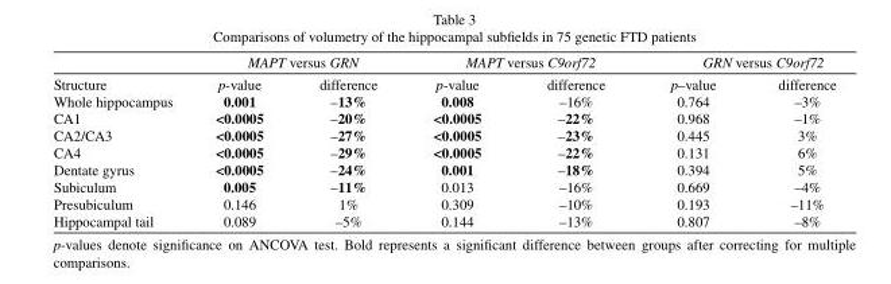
<table><thead><tr><td rowspan="2">Structure</td><td colspan="2">MAPT versus GRN</td><td colspan="2">MAPT versus C9orf72</td><td colspan="2">GRN versus C9orf72</td></tr><tr><td>p-value</td><td>difference</td><td>p-value</td><td>difference</td><td>p–value</td><td>difference</td></tr></thead><tbody><tr><td>Whole hippocampus</td><td>0.001</td><td>–13%</td><td>0.008</td><td>–16%</td><td>0.764</td><td>–3%</td></tr><tr><td>CA1</td><td>&lt;0.0005</td><td>–20%</td><td>&lt;0.0005</td><td>–22%</td><td>0.968</td><td>–1%</td></tr><tr><td>CA2/CA3</td><td>&lt;0.0005</td><td>–27%</td><td>&lt;0.0005</td><td>–23%</td><td>0.445</td><td>3%</td></tr><tr><td>CA4</td><td>&lt;0.0005</td><td>–29%</td><td>&lt;0.0005</td><td>–22%</td><td>0.131</td><td>6%</td></tr><tr><td>Dentate gyrus</td><td>&lt;0.0005</td><td>–24%</td><td>0.001</td><td>–18%</td><td>0.394</td><td>5%</td></tr><tr><td>Subiculum</td><td>0.005</td><td>–11%</td><td>0.013</td><td>–16%</td><td>0.669</td><td>–4%</td></tr><tr><td>Presubiculum</td><td>0.146</td><td>1%</td><td>0.309</td><td>–10%</td><td>0.193</td><td>–11%</td></tr><tr><td>Hippocampal tail</td><td>0.089</td><td>–5%</td><td>0.144</td><td>–13%</td><td>0.807</td><td>–8%</td></tr></tbody></table>